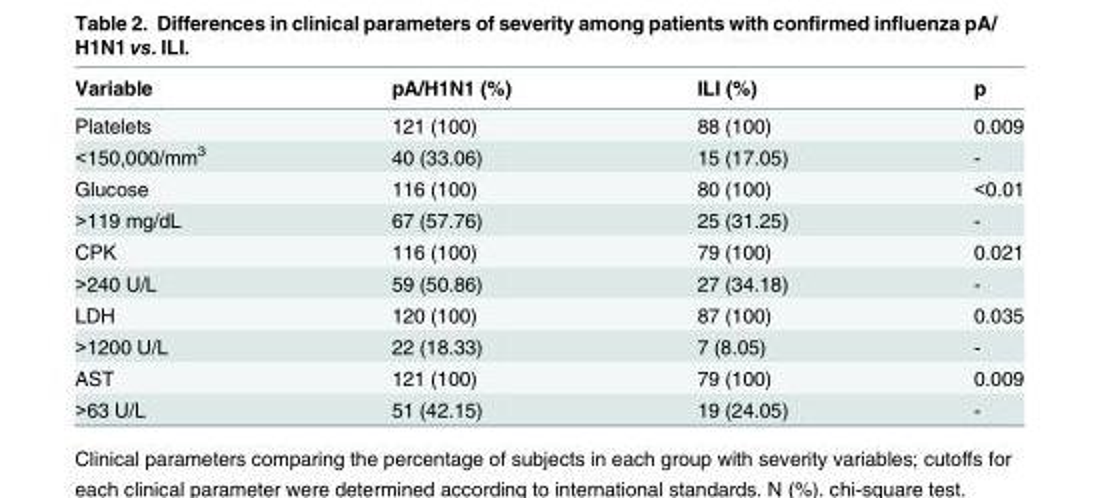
<table><thead><tr><td>Variable</td><td>pA/H1N1 (%)</td><td>ILI (%)</td><td>p</td></tr></thead><tbody><tr><td>Platelets</td><td>121 (100)</td><td>88 (100)</td><td>0.009</td></tr><tr><td>&lt;150,000/mm<sup>3</sup></td><td>40 (33.06)</td><td>15 (17.05)</td><td>-</td></tr><tr><td>Glucose</td><td>116 (100)</td><td>80 (100)</td><td>&lt;0.01</td></tr><tr><td>&gt;119 mg/dL</td><td>67 (57.76)</td><td>25 (31.25)</td><td>-</td></tr><tr><td>CPK</td><td>116 (100)</td><td>79 (100)</td><td>0.021</td></tr><tr><td>&gt;240 U/L</td><td>59 (50.86)</td><td>27 (34.18)</td><td>-</td></tr><tr><td>LDH</td><td>120 (100)</td><td>87 (100)</td><td>0.035</td></tr><tr><td>&gt;1200 U/L</td><td>22 (18.33)</td><td>7 (8.05)</td><td>-</td></tr><tr><td>AST</td><td>121 (100)</td><td>79 (100)</td><td>0.009</td></tr><tr><td>&gt;63 U/L</td><td>51 (42.15)</td><td>19 (24.05)</td><td>-</td></tr></tbody></table>